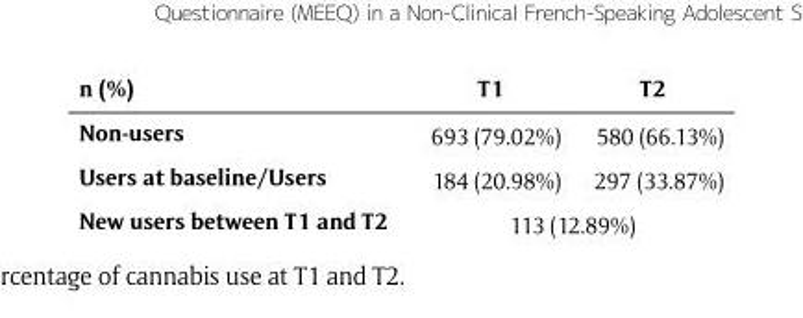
<table><thead><tr><td>n (%)</td><td>T1</td><td>T2</td></tr></thead><tbody><tr><td>Non-users</td><td>693 (79.02%)</td><td>580 (66.13%)</td></tr><tr><td>Users at baseline/Users</td><td>184 (20.98%)</td><td>297 (33.87%)</td></tr><tr><td>New users between T1 and T2</td><td colspan="2">113 (12.89%)</td></tr></tbody></table>